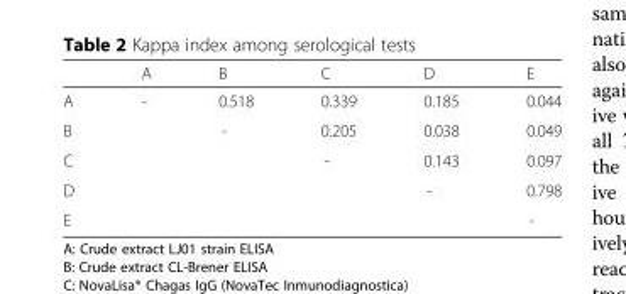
<table><thead><tr><td></td><td>A</td><td>B</td><td>C</td><td>D</td><td>E</td></tr></thead><tbody><tr><td>A</td><td>-</td><td>0.518</td><td>0.339</td><td>0.185</td><td>0.044</td></tr><tr><td>B</td><td></td><td>-</td><td>0.205</td><td>0.038</td><td>0.049</td></tr><tr><td>C</td><td></td><td></td><td>-</td><td>0.143</td><td>0.097</td></tr><tr><td>D</td><td></td><td></td><td></td><td>-</td><td>0.798</td></tr><tr><td>E</td><td></td><td></td><td></td><td></td><td>-</td></tr></tbody></table>